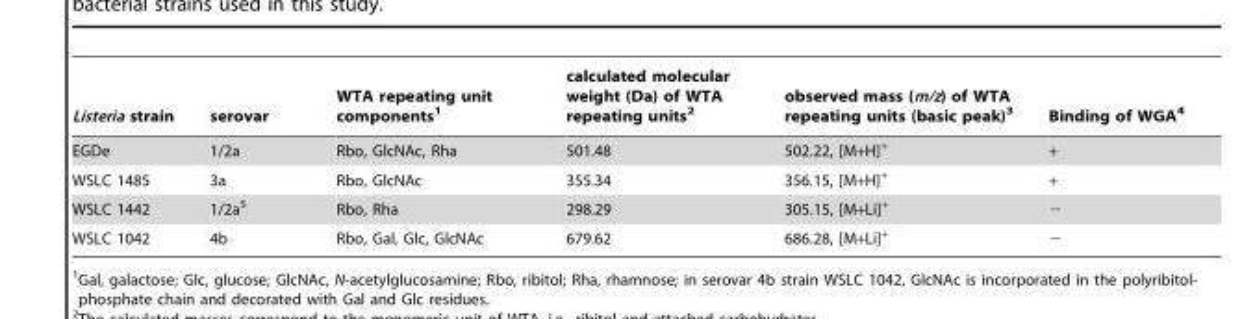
<table><thead><tr><td>Listeria strain</td><td>serovar</td><td>WTA repeating unit components<sup>1</sup></td><td>calculated molecular weight (Da) of WTA repeating units<sup>2</sup></td><td>observed mass (m/z) of WTA repeating units (basic peak)<sup>3</sup></td><td>Binding of WGA<sup>4</sup></td></tr></thead><tbody><tr><td>EGDe</td><td>1/2a</td><td>Rbo, GlcNAc, Rha</td><td>501.48</td><td>502.22, [M+H]<sup>+</sup></td><td>+</td></tr><tr><td>WSLC 1485</td><td>3a</td><td>Rbo, GlcNAc</td><td>355.34</td><td>356.15, [M+H]<sup>+</sup></td><td>+</td></tr><tr><td>WSLC 1442</td><td>1/2a<sup>5</sup></td><td>Rbo, Rha</td><td>298.29</td><td>305.15, [M+Li]<sup>+</sup></td><td>−</td></tr><tr><td>WSLC 1042</td><td>4b</td><td>Rbo, Gal, Glc, GlcNAc</td><td>679.62</td><td>686.28, [M+Li]<sup>+</sup></td><td>−</td></tr></tbody></table>